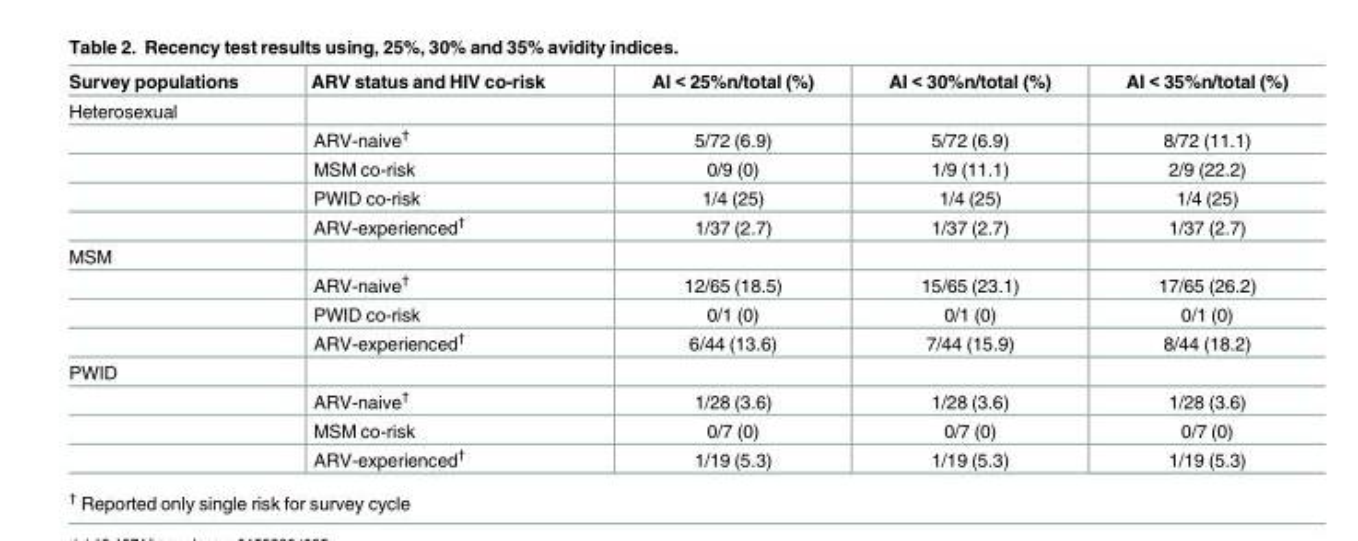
<table><thead><tr><td>Survey populations</td><td>ARV status and HIV co-risk</td><td>AI &lt; 25%n/total (%)</td><td>AI &lt; 30%n/total (%)</td><td>AI &lt; 35%n/total (%)</td></tr></thead><tbody><tr><td colspan="5">Heterosexual</td></tr><tr><td></td><td>ARV-naive<sup>†</sup></td><td>5/72 (6.9)</td><td>5/72 (6.9)</td><td>8/72 (11.1)</td></tr><tr><td></td><td>MSM co-risk</td><td>0/9 (0)</td><td>1/9 (11.1)</td><td>2/9 (22.2)</td></tr><tr><td></td><td>PWID co-risk</td><td>1/4 (25)</td><td>1/4 (25)</td><td>1/4 (25)</td></tr><tr><td></td><td>ARV-experienced<sup>†</sup></td><td>1/37 (2.7)</td><td>1/37 (2.7)</td><td>1/37 (2.7)</td></tr><tr><td colspan="5">MSM</td></tr><tr><td></td><td>ARV-naive<sup>†</sup></td><td>12/65 (18.5)</td><td>15/65 (23.1)</td><td>17/65 (26.2)</td></tr><tr><td></td><td>PWID co-risk</td><td>0/1 (0)</td><td>0/1 (0)</td><td>0/1 (0)</td></tr><tr><td></td><td>ARV-experienced<sup>†</sup></td><td>6/44 (13.6)</td><td>7/44 (15.9)</td><td>8/44 (18.2)</td></tr><tr><td colspan="5">PWID</td></tr><tr><td></td><td>ARV-naive<sup>†</sup></td><td>1/28 (3.6)</td><td>1/28 (3.6)</td><td>1/28 (3.6)</td></tr><tr><td></td><td>MSM co-risk</td><td>0/7 (0)</td><td>0/7 (0)</td><td>0/7 (0)</td></tr><tr><td></td><td>ARV-experienced<sup>†</sup></td><td>1/19 (5.3)</td><td>1/19 (5.3)</td><td>1/19 (5.3)</td></tr></tbody></table>